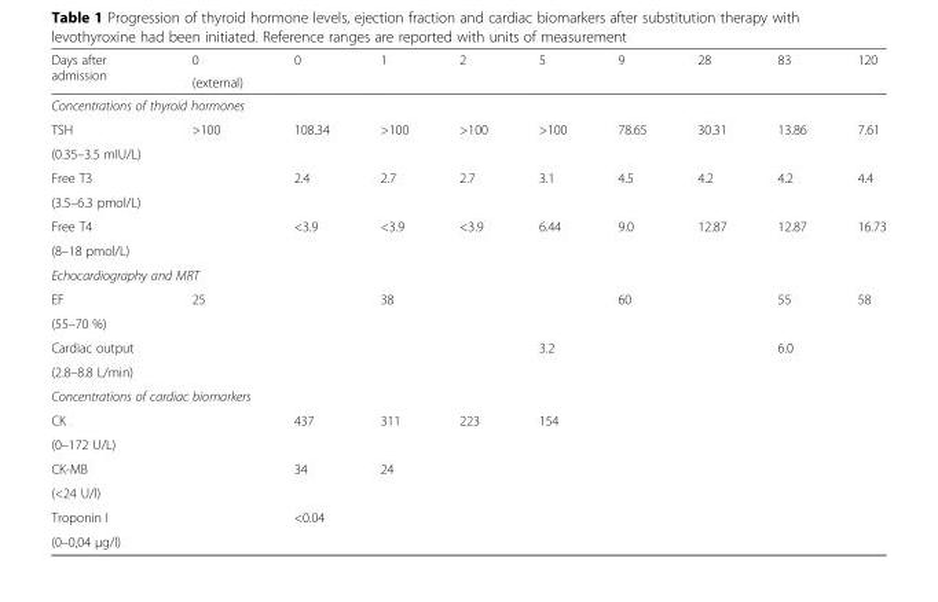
<table><thead><tr><td rowspan="2">Days after admission</td><td rowspan="2">0 (external)</td><td rowspan="2">0</td><td rowspan="2">1</td><td rowspan="2">2</td><td rowspan="2">5</td><td rowspan="2">9</td><td rowspan="2">28</td><td rowspan="2">83</td><td rowspan="2">120</td></tr><tr></tr></thead><tbody><tr><td colspan="10">Concentrations of thyroid hormones</td></tr><tr><td>TSH</td><td>&gt;100</td><td>108.34</td><td>&gt;100</td><td>&gt;100</td><td>&gt;100</td><td>78.65</td><td>30.31</td><td>13.86</td><td>7.61</td></tr><tr><td colspan="10">(0.35–3.5 mIU/L)</td></tr><tr><td>Free T3</td><td></td><td>2.4</td><td>2.7</td><td>2.7</td><td>3.1</td><td>4.5</td><td>4.2</td><td>4.2</td><td>4.4</td></tr><tr><td colspan="10">(3.5–6.3 pmol/L)</td></tr><tr><td>Free T4</td><td></td><td>&lt;3.9</td><td>&lt;3.9</td><td>&lt;3.9</td><td>6.44</td><td>9.0</td><td>12.87</td><td>12.87</td><td>16.73</td></tr><tr><td colspan="10">(8–18 pmol/L)</td></tr><tr><td colspan="10">Echocardiography and MRT</td></tr><tr><td>EF</td><td>25</td><td></td><td>38</td><td></td><td></td><td>60</td><td></td><td>55</td><td>58</td></tr><tr><td colspan="10">(55–70 %)</td></tr><tr><td>Cardiac output</td><td></td><td></td><td></td><td></td><td>3.2</td><td></td><td></td><td>6.0</td><td></td></tr><tr><td colspan="10">(2.8–8.8 L/min)</td></tr><tr><td colspan="10">Concentrations of cardiac biomarkers</td></tr><tr><td>CK</td><td></td><td>437</td><td>311</td><td>223</td><td>154</td><td></td><td></td><td></td><td></td></tr><tr><td colspan="10">(0–172 U/L)</td></tr><tr><td>CK-MB</td><td></td><td>34</td><td>24</td><td></td><td></td><td></td><td></td><td></td><td></td></tr><tr><td colspan="10">(&lt;24 U/l)</td></tr><tr><td>Troponin I</td><td></td><td>&lt;0.04</td><td></td><td></td><td></td><td></td><td></td><td></td><td></td></tr><tr><td>(0–0,04 μg/l)</td><td></td><td></td><td></td><td></td><td></td><td></td><td></td><td></td><td></td></tr></tbody></table>